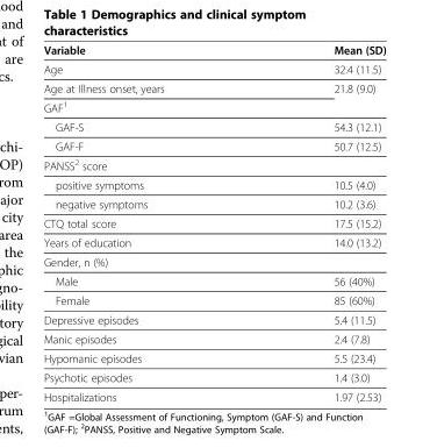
<table><thead><tr><td>Variable</td><td>Mean (SD)</td></tr></thead><tbody><tr><td>Age</td><td>32.4 (11.5)</td></tr><tr><td>Age at Illness onset, years</td><td rowspan="2">21.8 (9.0)</td></tr><tr><td>GAF<sup>1</sup></td></tr><tr><td>GAF-S</td><td>54.3 (12.1)</td></tr><tr><td>GAF-F</td><td>50.7 (12.5)</td></tr><tr><td colspan="2">PANSS<sup>2</sup> score</td></tr><tr><td>positive symptoms</td><td>10.5 (4.0)</td></tr><tr><td>negative symptoms</td><td>10.2 (3.6)</td></tr><tr><td>CTQ total score</td><td>17.5 (15.2)</td></tr><tr><td>Years of education</td><td>14.0 (13.2)</td></tr><tr><td colspan="2">Gender, n (%)</td></tr><tr><td>Male</td><td>56 (40%)</td></tr><tr><td>Female</td><td>85 (60%)</td></tr><tr><td>Depressive episodes</td><td>5.4 (11.5)</td></tr><tr><td>Manic episodes</td><td>2.4 (7.8)</td></tr><tr><td>Hypomanic episodes</td><td>5.5 (23.4)</td></tr><tr><td>Psychotic episodes</td><td>1.4 (3.0)</td></tr><tr><td>Hospitalizations</td><td>1.97 (2.53)</td></tr></tbody></table>